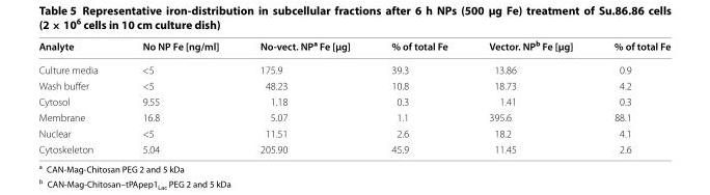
<table><thead><tr><td>Analyte</td><td>No NP Fe [ng/ml]</td><td>No‑vect. NP<sup>a</sup> Fe [µg]</td><td>% of total Fe</td><td>Vector. NP<sup>b</sup> Fe [µg]</td><td>% of total Fe</td></tr></thead><tbody><tr><td>Culture media</td><td>&lt;5</td><td>175.9</td><td>39.3</td><td>13.86</td><td>0.9</td></tr><tr><td>Wash buffer</td><td>&lt;5</td><td>48.23</td><td>10.8</td><td>18.73</td><td>4.2</td></tr><tr><td>Cytosol</td><td>9.55</td><td>1.18</td><td>0.3</td><td>1.41</td><td>0.3</td></tr><tr><td>Membrane</td><td>16.8</td><td>5.07</td><td>1.1</td><td>395.6</td><td>88.1</td></tr><tr><td>Nuclear</td><td>&lt;5</td><td>11.51</td><td>2.6</td><td>18.2</td><td>4.1</td></tr><tr><td>Cytoskeleton</td><td>5.04</td><td>205.90</td><td>45.9</td><td>11.45</td><td>2.6</td></tr></tbody></table>